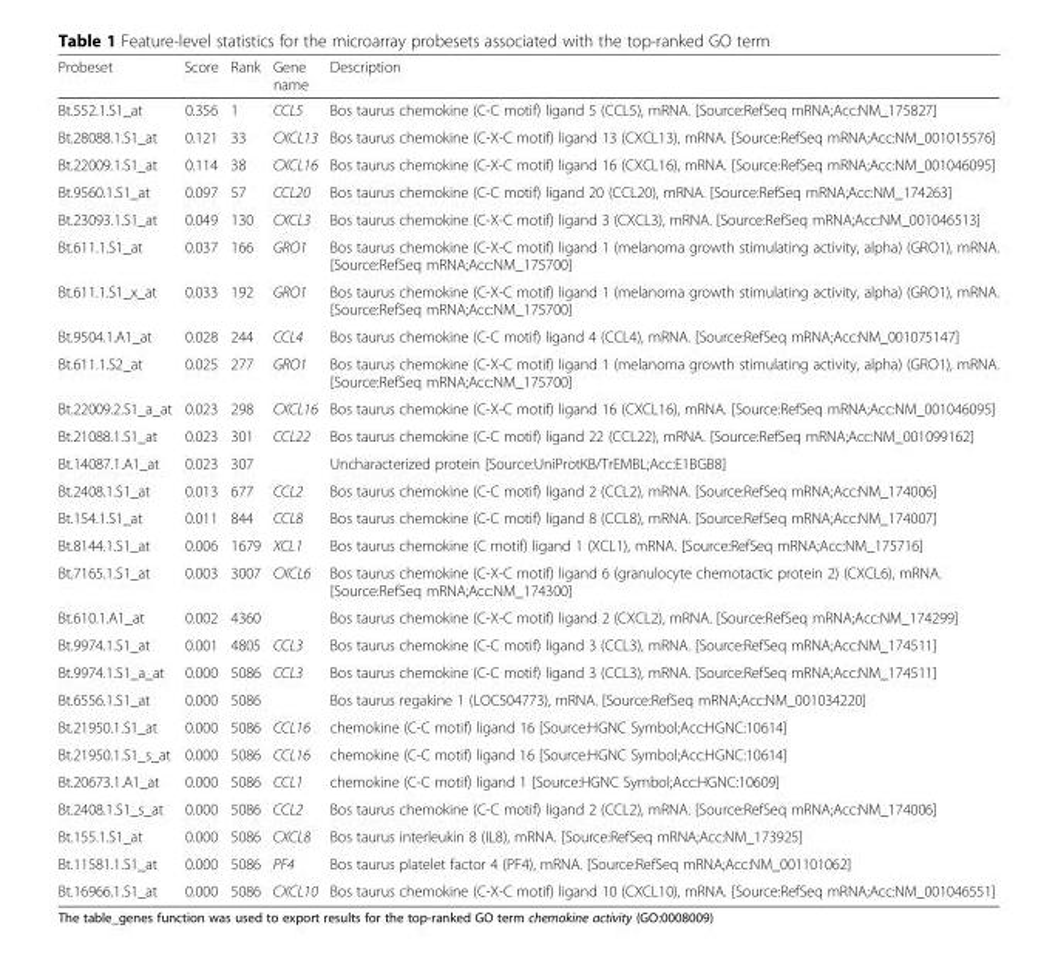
<table><thead><tr><td>Probeset</td><td>Score</td><td>Rank</td><td>Gene name</td><td>Description</td></tr></thead><tbody><tr><td>Bt.552.1.S1_at</td><td>0.356</td><td>1</td><td>CCL5</td><td>Bos taurus chemokine (C-C motif) ligand 5 (CCL5), mRNA. [Source:RefSeq mRNA;Acc:NM_175827]</td></tr><tr><td>Bt.28088.1.S1_at</td><td>0.121</td><td>33</td><td>CXCL13</td><td>Bos taurus chemokine (C-X-C motif) ligand 13 (CXCL13), mRNA. [Source:RefSeq mRNA;Acc:NM_001015576]</td></tr><tr><td>Bt.22009.1.S1_at</td><td>0.114</td><td>38</td><td>CXCL16</td><td>Bos taurus chemokine (C-X-C motif) ligand 16 (CXCL16), mRNA. [Source:RefSeq mRNA;Acc:NM_001046095]</td></tr><tr><td>Bt.9560.1.S1_at</td><td>0.097</td><td>57</td><td>CCL20</td><td>Bos taurus chemokine (C-C motif) ligand 20 (CCL20), mRNA. [Source:RefSeq mRNA;Acc:NM_174263]</td></tr><tr><td>Bt.23093.1.S1_at</td><td>0.049</td><td>130</td><td>CXCL3</td><td>Bos taurus chemokine (C-X-C motif) ligand 3 (CXCL3), mRNA. [Source:RefSeq mRNA;Acc:NM_001046513]</td></tr><tr><td>Bt.611.1.S1_at</td><td>0.037</td><td>166</td><td>GRO1</td><td>Bos taurus chemokine (C-X-C motif) ligand 1 (melanoma growth stimulating activity, alpha) (GRO1), mRNA. [Source:RefSeq mRNA;Acc:NM_175700]</td></tr><tr><td>Bt.611.1.S1_x_at</td><td>0.033</td><td>192</td><td>GRO1</td><td>Bos taurus chemokine (C-X-C motif) ligand 1 (melanoma growth stimulating activity, alpha) (GRO1), mRNA. [Source:RefSeq mRNA;Acc:NM_175700]</td></tr><tr><td>Bt.9504.1.A1_at</td><td>0.028</td><td>244</td><td>CCL4</td><td>Bos taurus chemokine (C-C motif) ligand 4 (CCL4), mRNA. [Source:RefSeq mRNA;Acc:NM_001075147]</td></tr><tr><td>Bt.611.1.S2_at</td><td>0.025</td><td>277</td><td>GRO1</td><td>Bos taurus chemokine (C-X-C motif) ligand 1 (melanoma growth stimulating activity, alpha) (GRO1), mRNA. [Source:RefSeq mRNA;Acc:NM_175700]</td></tr><tr><td>Bt.22009.2.S1_a_at</td><td>0.023</td><td>298</td><td>CXCL16</td><td>Bos taurus chemokine (C-X-C motif) ligand 16 (CXCL16), mRNA. [Source:RefSeq mRNA;Acc:NM_001046095]</td></tr><tr><td>Bt.21088.1.S1_at</td><td>0.023</td><td>301</td><td>CCL22</td><td>Bos taurus chemokine (C-C motif) ligand 22 (CCL22), mRNA. [Source:RefSeq mRNA;Acc:NM_001099162]</td></tr><tr><td>Bt.14087.1.A1_at</td><td>0.023</td><td>307</td><td></td><td>Uncharacterized protein [Source:UniProtKB/TrEMBL;Acc:E1BGB8]</td></tr><tr><td>Bt.2408.1.S1_at</td><td>0.013</td><td>677</td><td>CCL2</td><td>Bos taurus chemokine (C-C motif) ligand 2 (CCL2), mRNA. [Source:RefSeq mRNA;Acc:NM_174006]</td></tr><tr><td>Bt.154.1.S1_at</td><td>0.011</td><td>844</td><td>CCL8</td><td>Bos taurus chemokine (C-C motif) ligand 8 (CCL8), mRNA. [Source:RefSeq mRNA;Acc:NM_174007]</td></tr><tr><td>Bt.8144.1.S1_at</td><td>0.006</td><td>1679</td><td>XCL1</td><td>Bos taurus chemokine (C motif) ligand 1 (XCL1), mRNA. [Source:RefSeq mRNA;Acc:NM_175716]</td></tr><tr><td>Bt.7165.1.S1_at</td><td>0.003</td><td>3007</td><td>CXCL6</td><td>Bos taurus chemokine (C-X-C motif) ligand 6 (granulocyte chemotactic protein 2) (CXCL6), mRNA. [Source:RefSeq mRNA;Acc:NM_174300]</td></tr><tr><td>Bt.610.1.A1_at</td><td>0.002</td><td>4360</td><td></td><td>Bos taurus chemokine (C-X-C motif) ligand 2 (CXCL2), mRNA. [Source:RefSeq mRNA;Acc:NM_174299]</td></tr><tr><td>Bt.9974.1.S1_at</td><td>0.001</td><td>4805</td><td>CCL3</td><td>Bos taurus chemokine (C-C motif) ligand 3 (CCL3), mRNA. [Source:RefSeq mRNA;Acc:NM_174511]</td></tr><tr><td>Bt.9974.1.S1_a_at</td><td>0.000</td><td>5086</td><td>CCL3</td><td>Bos taurus chemokine (C-C motif) ligand 3 (CCL3), mRNA. [Source:RefSeq mRNA;Acc:NM_174511]</td></tr><tr><td>Bt.6556.1.S1_at</td><td>0.000</td><td>5086</td><td></td><td>Bos taurus regakine 1 (LOC504773), mRNA. [Source:RefSeq mRNA;Acc:NM_001034220]</td></tr><tr><td>Bt.21950.1.S1_at</td><td>0.000</td><td>5086</td><td>CCL16</td><td>chemokine (C-C motif) ligand 16 [Source:HGNC Symbol;Acc:HGNC:10614]</td></tr><tr><td>Bt.21950.1.S1_s_at</td><td>0.000</td><td>5086</td><td>CCL16</td><td>chemokine (C-C motif) ligand 16 [Source:HGNC Symbol;Acc:HGNC:10614]</td></tr><tr><td>Bt.20673.1.A1_at</td><td>0.000</td><td>5086</td><td>CCL1</td><td>chemokine (C-C motif) ligand 1 [Source:HGNC Symbol;Acc:HGNC:10609]</td></tr><tr><td>Bt.2408.1.S1_s_at</td><td>0.000</td><td>5086</td><td>CCL2</td><td>Bos taurus chemokine (C-C motif) ligand 2 (CCL2), mRNA. [Source:RefSeq mRNA;Acc:NM_174006]</td></tr><tr><td>Bt.155.1.S1_at</td><td>0.000</td><td>5086</td><td>CXCL8</td><td>Bos taurus interleukin 8 (IL8), mRNA. [Source:RefSeq mRNA;Acc:NM_173925]</td></tr><tr><td>Bt.11581.1.S1_at</td><td>0.000</td><td>5086</td><td>PF4</td><td>Bos taurus platelet factor 4 (PF4), mRNA. [Source:RefSeq mRNA;Acc:NM_001101062]</td></tr><tr><td>Bt.16966.1.S1_at</td><td>0.000</td><td>5086</td><td>CXCL10</td><td>Bos taurus chemokine (C-X-C motif) ligand 10 (CXCL10), mRNA. [Source:RefSeq mRNA;Acc:NM_001046551]</td></tr></tbody></table>